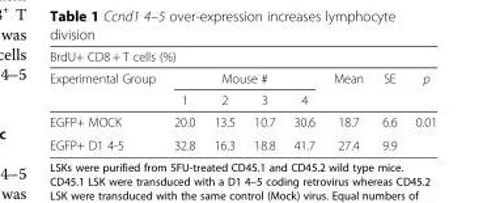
<table><thead><tr><td colspan="8">BrdU+ CD8 + T cells (%)</td></tr><tr><td rowspan="2">Experimental Group</td><td colspan="4">Mouse #</td><td rowspan="2">Mean</td><td rowspan="2">SE</td><td rowspan="2">p</td></tr><tr><td>1</td><td>2</td><td>3</td><td>4</td></tr></thead><tbody><tr><td>EGFP+ MOCK</td><td>20.0</td><td>13.5</td><td>10.7</td><td>30.6</td><td>18.7</td><td>6.6</td><td>0.01</td></tr><tr><td>EGFP+ D1 4-5</td><td>32.8</td><td>16.3</td><td>18.8</td><td>41.7</td><td>27.4</td><td>9.9</td><td></td></tr></tbody></table>